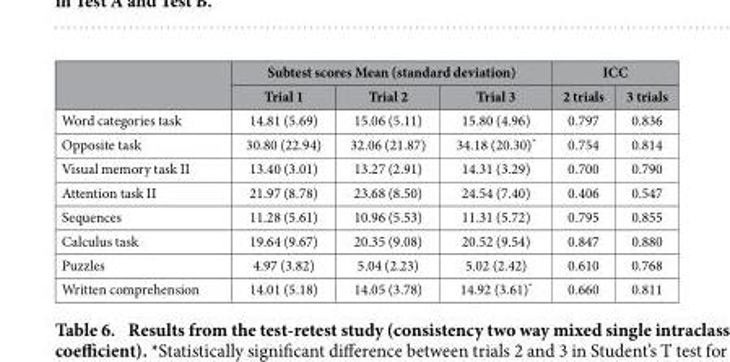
<table><thead><tr><td rowspan="2"></td><td colspan="3">Subtest scores Mean (standard deviation)</td><td colspan="2">ICC</td></tr><tr><td>Trial 1</td><td>Trial 2</td><td>Trial 3</td><td>2 trials</td><td>3 trials</td></tr></thead><tbody><tr><td>Word categories task</td><td>14.81 (5.69)</td><td>15.06 (5.11)</td><td>15.80 (4.96)</td><td>0.797</td><td>0.836</td></tr><tr><td>Opposite task</td><td>30.80 (22.94)</td><td>32.06 (21.87)</td><td>34.18 (20.30)*</td><td>0.754</td><td>0.814</td></tr><tr><td>Visual memory task II</td><td>13.40 (3.01)</td><td>13.27 (2.91)</td><td>14.31 (3.29)</td><td>0.700</td><td>0.790</td></tr><tr><td>Attention task II</td><td>21.97 (8.78)</td><td>23.68 (8.50)</td><td>24.54 (7.40)</td><td>0.406</td><td>0.547</td></tr><tr><td>Sequences</td><td>11.28 (5.61)</td><td>10.96 (5.53)</td><td>11.31 (5.72)</td><td>0.795</td><td>0.855</td></tr><tr><td>Calculus task</td><td>19.64 (9.67)</td><td>20.35 (9.08)</td><td>20.52 (9.54)</td><td>0.847</td><td>0.880</td></tr><tr><td>Puzzles</td><td>4.97 (3.82)</td><td>5.04 (2.23)</td><td>5.02 (2.42)</td><td>0.610</td><td>0.768</td></tr><tr><td>Written comprehension</td><td>14.01 (5.18)</td><td>14.05 (3.78)</td><td>14.92 (3.61)*</td><td>0.660</td><td>0.811</td></tr></tbody></table>